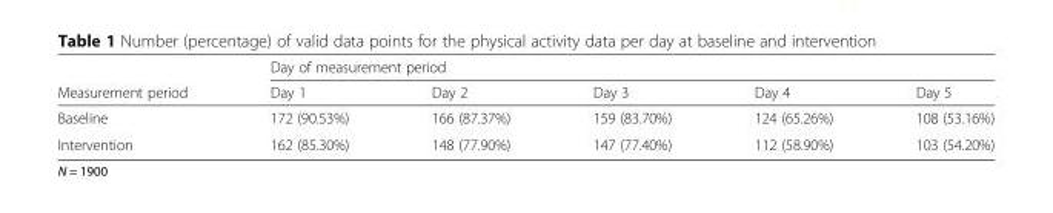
<table><thead><tr><td rowspan="2">Measurement period</td><td colspan="5">Day of measurement period</td></tr><tr><td>Day 1</td><td>Day 2</td><td>Day 3</td><td>Day 4</td><td>Day 5</td></tr></thead><tbody><tr><td>Baseline</td><td>172 (90.53%)</td><td>166 (87.37%)</td><td>159 (83.70%)</td><td>124 (65.26%)</td><td>108 (53.16%)</td></tr><tr><td>Intervention</td><td>162 (85.30%)</td><td>148 (77.90%)</td><td>147 (77.40%)</td><td>112 (58.90%)</td><td>103 (54.20%)</td></tr></tbody></table>